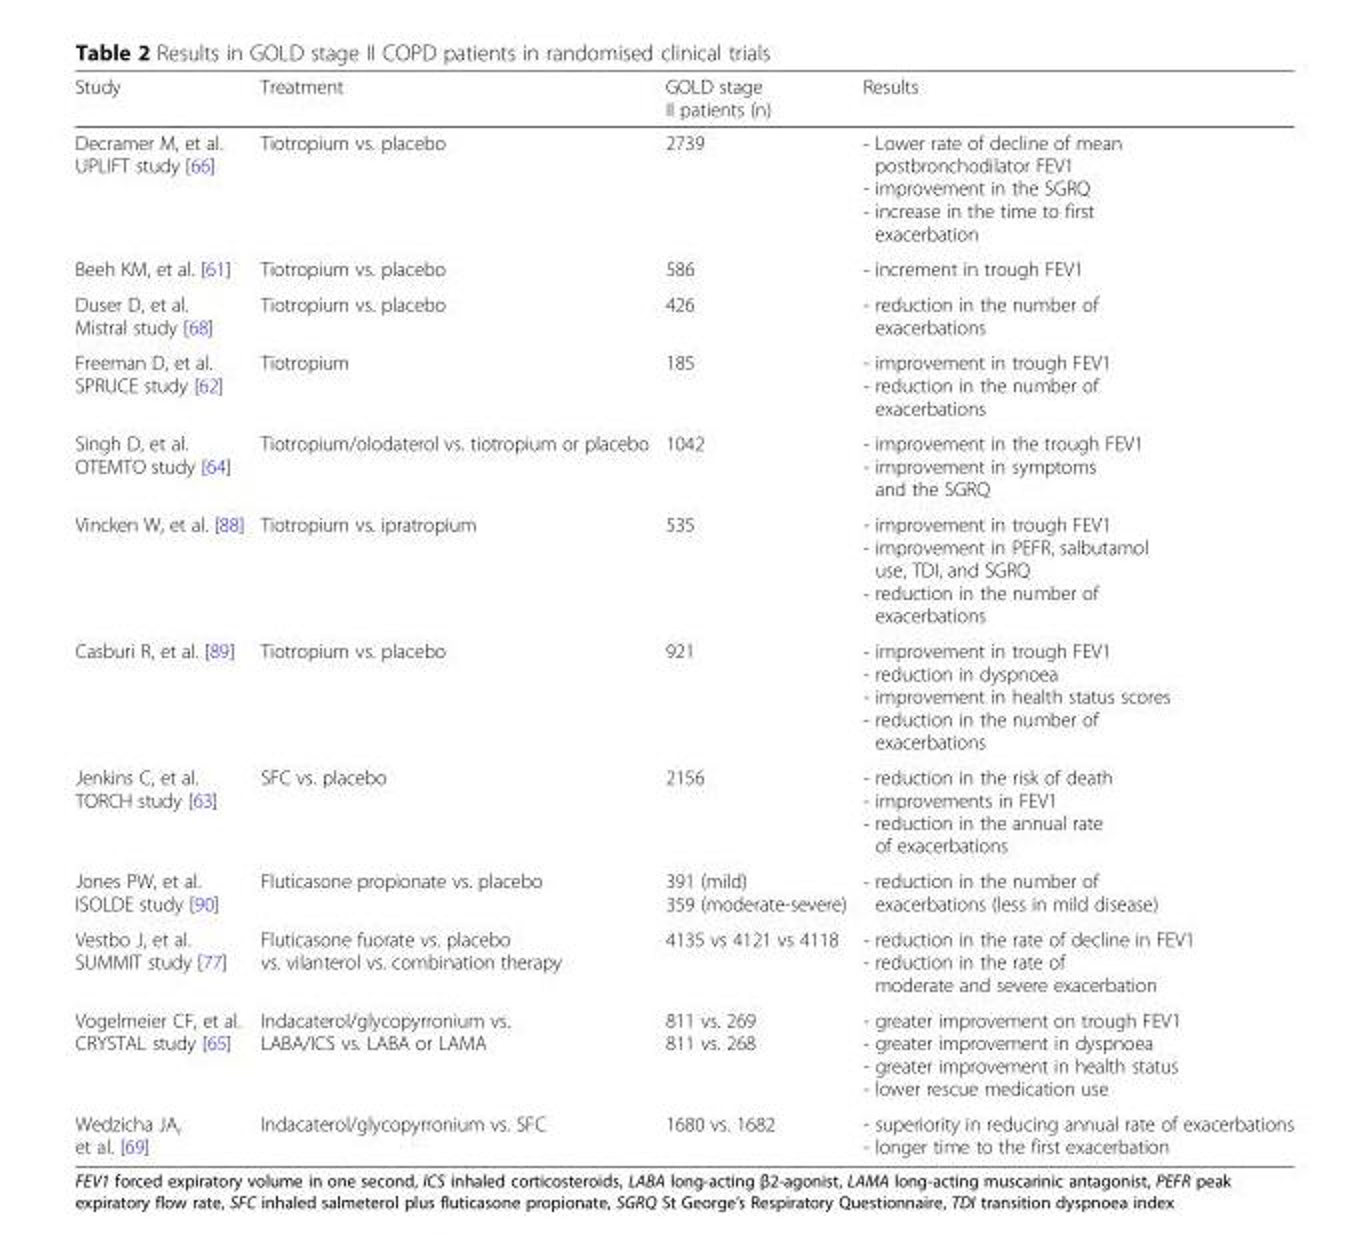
<table><thead><tr><td>Study</td><td>Treatment</td><td>GOLD stage II patients (n)</td><td>Results</td></tr></thead><tbody><tr><td>Decramer M, et al. UPLIFT study [66]</td><td>Tiotropium vs. placebo</td><td>2739</td><td>- Lower rate of decline of mean postbronchodilator FEV1 - improvement in the SGRQ - increase in the time to first exacerbation</td></tr><tr><td>Beeh KM, et al. [61]</td><td>Tiotropium vs. placebo</td><td>586</td><td>- increment in trough FEV1</td></tr><tr><td>Duser D, et al. Mistral study [68]</td><td>Tiotropium vs. placebo</td><td>426</td><td>- reduction in the number of exacerbations</td></tr><tr><td>Freeman D, et al. SPRUCE study [62]</td><td>Tiotropium</td><td>185</td><td>- improvement in trough FEV1 - reduction in the number of exacerbations</td></tr><tr><td>Singh D, et al. OTEMTO study [64]</td><td>Tiotropium/olodaterol vs. tiotropium or placebo</td><td>1042</td><td>- improvement in the trough FEV1 - improvement in symptoms and the SGRQ</td></tr><tr><td>Vincken W, et al. [88]</td><td>Tiotropium vs. ipratropium</td><td>535</td><td>- improvement in trough FEV1 - improvement in PEFR, salbutamol use, TDI, and SGRQ - reduction in the number of exacerbations</td></tr><tr><td>Casburi R, et al. [89]</td><td>Tiotropium vs. placebo</td><td>921</td><td>- improvement in trough FEV1 - reduction in dyspnoea - improvement in health status scores - reduction in the number of exacerbations</td></tr><tr><td>Jenkins C, et al. TORCH study [63]</td><td>SFC vs. placebo</td><td>2156</td><td>- reduction in the risk of death - improvements in FEV1 - reduction in the annual rate of exacerbations</td></tr><tr><td>Jones PW, et al. ISOLDE study [90]</td><td>Fluticasone propionate vs. placebo</td><td>391 (mild) 359 (moderate-severe)</td><td>- reduction in the number of exacerbations (less in mild disease)</td></tr><tr><td>Vestbo J, et al. SUMMIT study [77]</td><td>Fluticasone fuorate vs. placebo vs. vilanterol vs. combination therapy</td><td>4135 vs 4121 vs 4118</td><td>- reduction in the rate of decline in FEV1 - reduction in the rate of moderate and severe exacerbation</td></tr><tr><td>Vogelmeier CF, et al. CRYSTAL study [65]</td><td>Indacaterol/glycopyrronium vs. LABA/ICS vs. LABA or LAMA</td><td>811 vs. 269 811 vs. 268</td><td>- greater improvement on trough FEV1 - greater improvement in dyspnoea - greater improvement in health status - lower rescue medication use</td></tr><tr><td>Wedzicha JA, et al. [69]</td><td>Indacaterol/glycopyrronium vs. SFC</td><td>1680 vs. 1682</td><td>- superiority in reducing annual rate of exacerbations - longer time to the first exacerbation</td></tr></tbody></table>